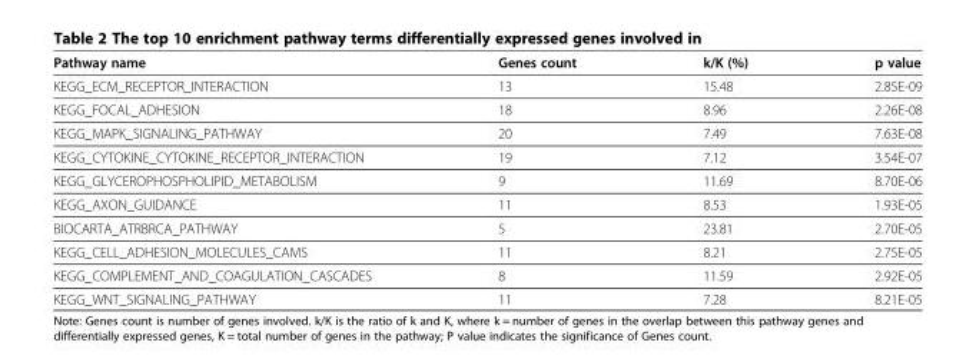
<table><thead><tr><td>Pathway name</td><td>Genes count</td><td>k/K (%)</td><td>p value</td></tr></thead><tbody><tr><td>KEGG_ECM_RECEPTOR_INTERACTION</td><td>13</td><td>15.48</td><td>2.85E-09</td></tr><tr><td>KEGG_FOCAL_ADHESION</td><td>18</td><td>8.96</td><td>2.26E-08</td></tr><tr><td>KEGG_MAPK_SIGNALING_PATHWAY</td><td>20</td><td>7.49</td><td>7.63E-08</td></tr><tr><td>KEGG_CYTOKINE_CYTOKINE_RECEPTOR_INTERACTION</td><td>19</td><td>7.12</td><td>3.54E-07</td></tr><tr><td>KEGG_GLYCEROPHOSPHOLIPID_METABOLISM</td><td>9</td><td>11.69</td><td>8.70E-06</td></tr><tr><td>KEGG_AXON_GUIDANCE</td><td>11</td><td>8.53</td><td>1.93E-05</td></tr><tr><td>BIOCARTA_ATRBRCA_PATHWAY</td><td>5</td><td>23.81</td><td>2.70E-05</td></tr><tr><td>KEGG_CELL_ADHESION_MOLECULES_CAMS</td><td>11</td><td>8.21</td><td>2.75E-05</td></tr><tr><td>KEGG_COMPLEMENT_AND_COAGULATION_CASCADES</td><td>8</td><td>11.59</td><td>2.92E-05</td></tr><tr><td>KEGG_WNT_SIGNALING_PATHWAY</td><td>11</td><td>7.28</td><td>8.21E-05</td></tr></tbody></table>